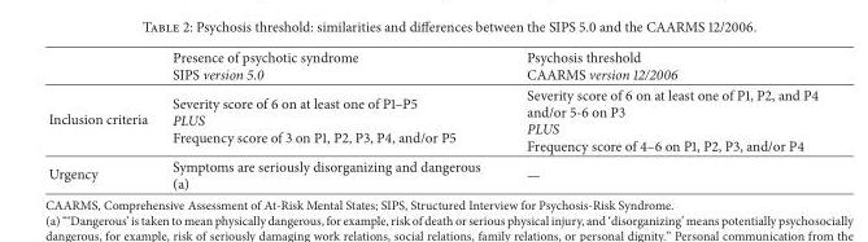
<table><thead><tr><td></td><td>Presence of psychotic syndrome SIPS version 5.0</td><td>Psychosis threshold CAARMS version 12/2006</td></tr></thead><tbody><tr><td>Inclusion criteria</td><td>Severity score of 6 on at least one of P1–P5 PLUS Frequency score of 3 on P1, P2, P3, P4, and/or P5</td><td>Severity score of 6 on at least one of P1, P2, and P4 and/or 5-6 on P3 PLUS Frequency score of 4–6 on P1, P2, P3, and/or P4</td></tr><tr><td>Urgency</td><td>Symptoms are seriously disorganizing and dangerous (a)</td><td>—</td></tr></tbody></table>